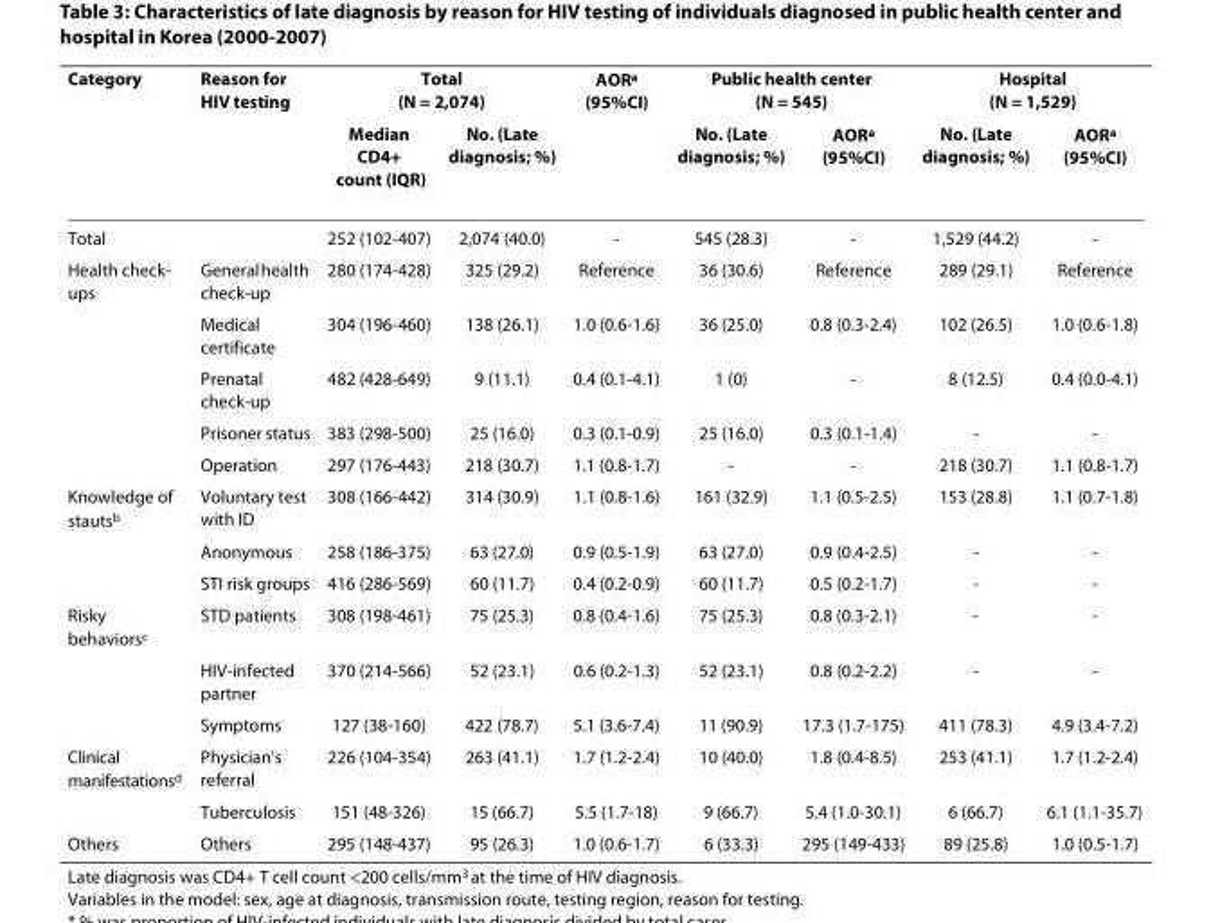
<table><thead><tr><td rowspan="2">Category</td><td rowspan="2">Reason for HIV testing</td><td colspan="2">Total (N = 2,074)</td><td rowspan="2">AOR<sup>a</sup> (95%CI)</td><td colspan="2">Public health center (N = 545)</td><td colspan="2">Hospital (N = 1,529)</td></tr><tr><td>Median CD4+ count (IQR)</td><td>No. (Late diagnosis; %)</td><td>No. (Late diagnosis; %)</td><td>AOR<sup>a</sup> (95%CI)</td><td>No. (Late diagnosis; %)</td><td>AOR<sup>a</sup> (95%CI)</td></tr></thead><tbody><tr><td>Total</td><td></td><td>252 (102-407)</td><td>2,074 (40.0)</td><td>-</td><td>545 (28.3)</td><td>-</td><td>1,529 (44.2)</td><td>-</td></tr><tr><td rowspan="5">Health check- ups</td><td>General health check-up</td><td>280 (174-428)</td><td>325 (29.2)</td><td>Reference</td><td>36 (30.6)</td><td>Reference</td><td>289 (29.1)</td><td>Reference</td></tr><tr><td>Medical certificate</td><td>304 (196-460)</td><td>138 (26.1)</td><td>1.0 (0.6-1.6)</td><td>36 (25.0)</td><td>0.8 (0.3-2.4)</td><td>102 (26.5)</td><td>1.0 (0.6-1.8)</td></tr><tr><td>Prenatal check-up</td><td>482 (428-649)</td><td>9 (11.1)</td><td>0.4 (0.1-4.1)</td><td>1 (0)</td><td>-</td><td>8 (12.5)</td><td>0.4 (0.0-4.1)</td></tr><tr><td>Prisoner status</td><td>383 (298-500)</td><td>25 (16.0)</td><td>0.3 (0.1-0.9)</td><td>25 (16.0)</td><td>0.3 (0.1-1.4)</td><td>-</td><td>-</td></tr><tr><td>Operation</td><td>297 (176-443)</td><td>218 (30.7)</td><td>1.1 (0.8-1.7)</td><td>-</td><td>-</td><td>218 (30.7)</td><td>1.1 (0.8-1.7)</td></tr><tr><td rowspan="3">Knowledge of stauts<sup>b</sup></td><td>Voluntary test with ID</td><td>308 (166-442)</td><td>314 (30.9)</td><td>1.1 (0.8-1.6)</td><td>161 (32.9)</td><td>1.1 (0.5-2.5)</td><td>153 (28.8)</td><td>1.1 (0.7-1.8)</td></tr><tr><td>Anonymous</td><td>258 (186-375)</td><td>63 (27.0)</td><td>0.9 (0.5-1.9)</td><td>63 (27.0)</td><td>0.9 (0.4-2.5)</td><td>-</td><td>-</td></tr><tr><td>STI risk groups</td><td>416 (286-569)</td><td>60 (11.7)</td><td>0.4 (0.2-0.9)</td><td>60 (11.7)</td><td>0.5 (0.2-1.7)</td><td>-</td><td>-</td></tr><tr><td rowspan="3">Risky behaviors<sup>c</sup></td><td>STD patients</td><td>308 (198-461)</td><td>75 (25.3)</td><td>0.8 (0.4-1.6)</td><td>75 (25.3)</td><td>0.8 (0.3-2.1)</td><td>-</td><td>-</td></tr><tr><td>HIV-infected partner</td><td>370 (214-566)</td><td>52 (23.1)</td><td>0.6 (0.2-1.3)</td><td>52 (23.1)</td><td>0.8 (0.2-2.2)</td><td>-</td><td>-</td></tr><tr><td>Symptoms</td><td>127 (38-160)</td><td>422 (78.7)</td><td>5.1 (3.6-7.4)</td><td>11 (90.9)</td><td>17.3 (1.7-175)</td><td>411 (78.3)</td><td>4.9 (3.4-7.2)</td></tr><tr><td rowspan="2">Clinical manifestations<sup>d</sup></td><td>Physician&#x27;s referral</td><td>226 (104-354)</td><td>263 (41.1)</td><td>1.7 (1.2-2.4)</td><td>10 (40.0)</td><td>1.8 (0.4-8.5)</td><td>253 (41.1)</td><td>1.7 (1.2-2.4)</td></tr><tr><td>Tuberculosis</td><td>151 (48-326)</td><td>15 (66.7)</td><td>5.5 (1.7-18)</td><td>9 (66.7)</td><td>5.4 (1.0-30.1)</td><td>6 (66.7)</td><td>6.1 (1.1-35.7)</td></tr><tr><td>Others</td><td>Others</td><td>295 (148-437)</td><td>95 (26.3)</td><td>1.0 (0.6-1.7)</td><td>6 (33.3)</td><td>295 (149-433)</td><td>89 (25.8)</td><td>1.0 (0.5-1.7)</td></tr></tbody></table>